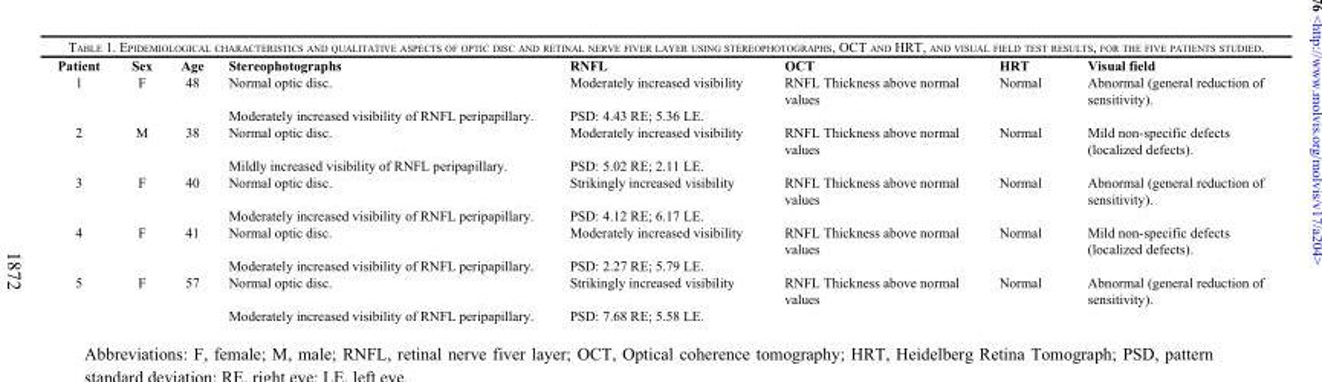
<table><thead><tr><td>Patient</td><td>Sex</td><td>Age</td><td>Stereophotographs</td><td>RNFL</td><td>OCT</td><td>HRT</td><td>Visual field</td></tr></thead><tbody><tr><td rowspan="2">1</td><td>F</td><td>48</td><td>Normal optic disc.</td><td>Moderately increased visibility</td><td>RNFL Thickness above normal values</td><td>Normal</td><td>Abnormal (general reduction of sensitivity).</td></tr><tr><td></td><td></td><td>Moderately increased visibility of RNFL peripapillary.</td><td>PSD: 4.43 RE; 5.36 LE.</td><td></td><td></td><td></td></tr><tr><td rowspan="2">2</td><td>M</td><td>38</td><td>Normal optic disc.</td><td>Moderately increased visibility</td><td>RNFL Thickness above normal values</td><td>Normal</td><td>Mild non-specific defects (localized defects).</td></tr><tr><td></td><td></td><td>Mildly increased visibility of RNFL peripapillary.</td><td>PSD: 5.02 RE; 2.11 LE.</td><td></td><td></td><td></td></tr><tr><td rowspan="2">3</td><td>F</td><td>40</td><td>Normal optic disc.</td><td>Strikingly increased visibility</td><td>RNFL Thickness above normal values</td><td>Normal</td><td>Abnormal (general reduction of sensitivity).</td></tr><tr><td></td><td></td><td>Moderately increased visibility of RNFL peripapillary.</td><td>PSD: 4.12 RE; 6.17 LE.</td><td></td><td></td><td></td></tr><tr><td rowspan="2">4</td><td>F</td><td>41</td><td>Normal optic disc.</td><td>Moderately increased visibility</td><td>RNFL Thickness above normal values</td><td>Normal</td><td>Mild non-specific defects (localized defects).</td></tr><tr><td></td><td></td><td>Moderately increased visibility of RNFL peripapillary.</td><td>PSD: 2.27 RE; 5.79 LE.</td><td></td><td></td><td></td></tr><tr><td rowspan="2">5</td><td>F</td><td>57</td><td>Normal optic disc.</td><td>Strikingly increased visibility</td><td>RNFL Thickness above normal values</td><td>Normal</td><td>Abnormal (general reduction of sensitivity).</td></tr><tr><td></td><td></td><td>Moderately increased visibility of RNFL peripapillary.</td><td>PSD: 7.68 RE; 5.58 LE.</td><td></td><td></td><td></td></tr></tbody></table>